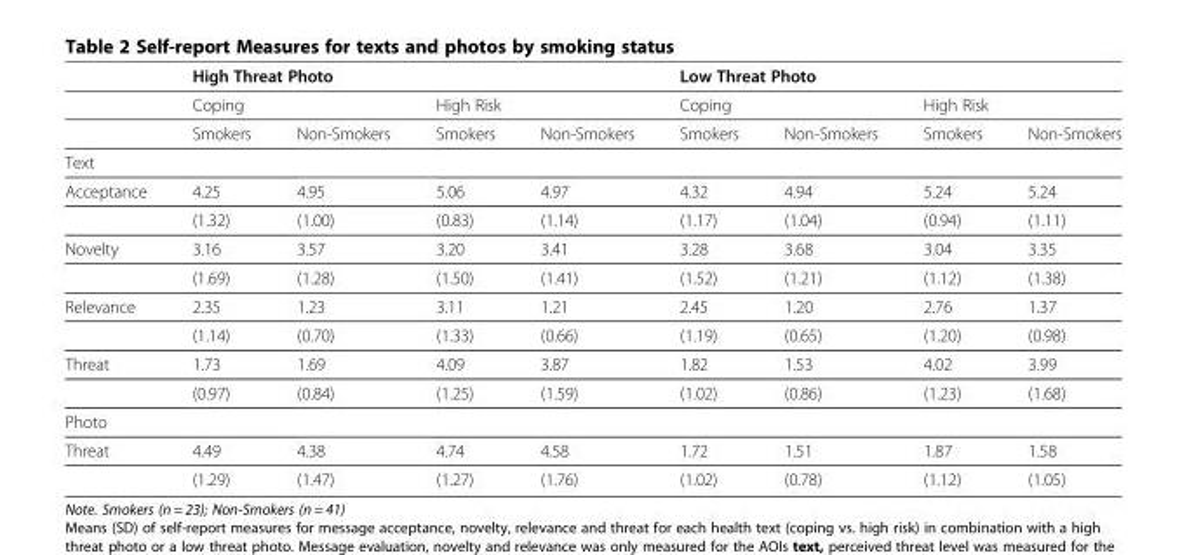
<table><thead><tr><td rowspan="3"></td><td colspan="4">High Threat Photo</td><td colspan="4">Low Threat Photo</td></tr><tr><td colspan="2">Coping</td><td colspan="2">High Risk</td><td colspan="2">Coping</td><td colspan="2">High Risk</td></tr><tr><td>Smokers</td><td>Non-Smokers</td><td>Smokers</td><td>Non-Smokers</td><td>Smokers</td><td>Non-Smokers</td><td>Smokers</td><td>Non-Smokers</td></tr></thead><tbody><tr><td colspan="9">Text</td></tr><tr><td rowspan="2">Acceptance</td><td>4.25</td><td>4.95</td><td>5.06</td><td>4.97</td><td>4.32</td><td>4.94</td><td>5.24</td><td>5.24</td></tr><tr><td>(1.32)</td><td>(1.00)</td><td>(0.83)</td><td>(1.14)</td><td>(1.17)</td><td>(1.04)</td><td>(0.94)</td><td>(1.11)</td></tr><tr><td rowspan="2">Novelty</td><td>3.16</td><td>3.57</td><td>3.20</td><td>3.41</td><td>3.28</td><td>3.68</td><td>3.04</td><td>3.35</td></tr><tr><td>(1.69)</td><td>(1.28)</td><td>(1.50)</td><td>(1.41)</td><td>(1.52)</td><td>(1.21)</td><td>(1.12)</td><td>(1.38)</td></tr><tr><td rowspan="2">Relevance</td><td>2.35</td><td>1.23</td><td>3.11</td><td>1.21</td><td>2.45</td><td>1.20</td><td>2.76</td><td>1.37</td></tr><tr><td>(1.14)</td><td>(0.70)</td><td>(1.33)</td><td>(0.66)</td><td>(1.19)</td><td>(0.65)</td><td>(1.20)</td><td>(0.98)</td></tr><tr><td rowspan="2">Threat</td><td>1.73</td><td>1.69</td><td>4.09</td><td>3.87</td><td>1.82</td><td>1.53</td><td>4.02</td><td>3.99</td></tr><tr><td>(0.97)</td><td>(0.84)</td><td>(1.25)</td><td>(1.59)</td><td>(1.02)</td><td>(0.86)</td><td>(1.23)</td><td>(1.68)</td></tr><tr><td colspan="9">Photo</td></tr><tr><td rowspan="2">Threat</td><td>4.49</td><td>4.38</td><td>4.74</td><td>4.58</td><td>1.72</td><td>1.51</td><td>1.87</td><td>1.58</td></tr><tr><td>(1.29)</td><td>(1.47)</td><td>(1.27)</td><td>(1.76)</td><td>(1.02)</td><td>(0.78)</td><td>(1.12)</td><td>(1.05)</td></tr></tbody></table>